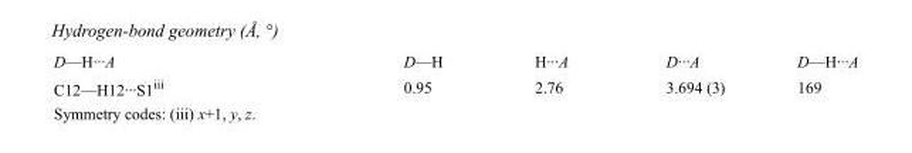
<table><tbody><tr><td>D—H···A</td><td>D—H</td><td>H···A</td><td>D···A</td><td>D—H···A</td></tr><tr><td>C12—H12···S1<sup>iii</sup></td><td>0.95</td><td>2.76</td><td>3.694 (3)</td><td>169</td></tr></tbody></table>